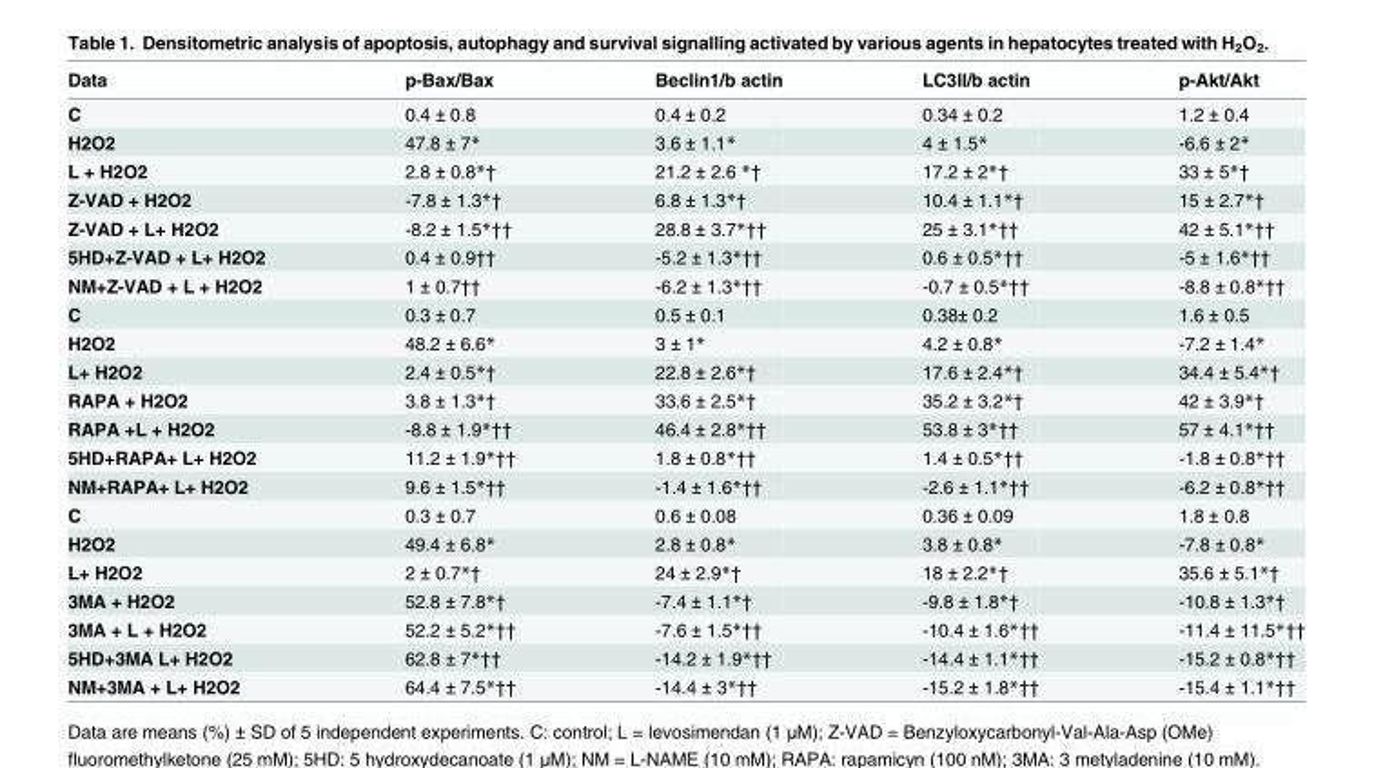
<table><thead><tr><td>Data</td><td>p-Bax/Bax</td><td>Beclin1/b actin</td><td>LC3II/b actin</td><td>p-Akt/Akt</td></tr></thead><tbody><tr><td>C</td><td>0.4 ± 0.8</td><td>0.4 ± 0.2</td><td>0.34 ± 0.2</td><td>1.2 ± 0.4</td></tr><tr><td>H2O2</td><td>47.8 ± 7*</td><td>3.6 ± 1.1*</td><td>4 ± 1.5*</td><td>-6.6 ± 2*</td></tr><tr><td>L + H2O2</td><td>2.8 ± 0.8*†</td><td>21.2 ± 2.6 *†</td><td>17.2 ± 2*†</td><td>33 ± 5*†</td></tr><tr><td>Z-VAD + H2O2</td><td>-7.8 ± 1.3*†</td><td>6.8 ± 1.3*†</td><td>10.4 ± 1.1*†</td><td>15 ± 2.7*†</td></tr><tr><td>Z-VAD + L+ H2O2</td><td>-8.2 ± 1.5*††</td><td>28.8 ± 3.7*††</td><td>25 ± 3.1*††</td><td>42 ± 5.1*††</td></tr><tr><td>5HD+Z-VAD + L+ H2O2</td><td>0.4 ± 0.9††</td><td>-5.2 ± 1.3*††</td><td>0.6 ± 0.5*††</td><td>-5 ± 1.6*††</td></tr><tr><td>NM+Z-VAD + L + H2O2</td><td>1 ± 0.7††</td><td>-6.2 ± 1.3*††</td><td>-0.7 ± 0.5*††</td><td>-8.8 ± 0.8*††</td></tr><tr><td>C</td><td>0.3 ± 0.7</td><td>0.5 ± 0.1</td><td>0.38± 0.2</td><td>1.6 ± 0.5</td></tr><tr><td>H2O2</td><td>48.2 ± 6.6*</td><td>3 ± 1*</td><td>4.2 ± 0.8*</td><td>-7.2 ± 1.4*</td></tr><tr><td>L+ H2O2</td><td>2.4 ± 0.5*†</td><td>22.8 ± 2.6*†</td><td>17.6 ± 2.4*†</td><td>34.4 ± 5.4*†</td></tr><tr><td>RAPA + H2O2</td><td>3.8 ± 1.3*†</td><td>33.6 ± 2.5*†</td><td>35.2 ± 3.2*†</td><td>42 ± 3.9*†</td></tr><tr><td>RAPA +L + H2O2</td><td>-8.8 ± 1.9*††</td><td>46.4 ± 2.8*††</td><td>53.8 ± 3*††</td><td>57 ± 4.1*††</td></tr><tr><td>5HD+RAPA+ L+ H2O2</td><td>11.2 ± 1.9*††</td><td>1.8 ± 0.8*††</td><td>1.4 ± 0.5*††</td><td>-1.8 ± 0.8*††</td></tr><tr><td>NM+RAPA+ L+ H2O2</td><td>9.6 ± 1.5*††</td><td>-1.4 ± 1.6*††</td><td>-2.6 ± 1.1*††</td><td>-6.2 ± 0.8*††</td></tr><tr><td>C</td><td>0.3 ± 0.7</td><td>0.6 ± 0.08</td><td>0.36 ± 0.09</td><td>1.8 ± 0.8</td></tr><tr><td>H2O2</td><td>49.4 ± 6.8*</td><td>2.8 ± 0.8*</td><td>3.8 ± 0.8*</td><td>-7.8 ± 0.8*</td></tr><tr><td>L+ H2O2</td><td>2 ± 0.7*†</td><td>24 ± 2.9*†</td><td>18 ± 2.2*†</td><td>35.6 ± 5.1*†</td></tr><tr><td>3MA + H2O2</td><td>52.8 ± 7.8*†</td><td>-7.4 ± 1.1*†</td><td>-9.8 ± 1.8*†</td><td>-10.8 ± 1.3*†</td></tr><tr><td>3MA + L + H2O2</td><td>52.2 ± 5.2*††</td><td>-7.6 ± 1.5*††</td><td>-10.4 ± 1.6*††</td><td>-11.4 ± 11.5*††</td></tr><tr><td>5HD+3MA L+ H2O2</td><td>62.8 ± 7*††</td><td>-14.2 ± 1.9*††</td><td>-14.4 ± 1.1*††</td><td>-15.2 ± 0.8*††</td></tr><tr><td>NM+3MA + L+ H2O2</td><td>64.4 ± 7.5*††</td><td>-14.4 ± 3*††</td><td>-15.2 ± 1.8*††</td><td>-15.4 ± 1.1*††</td></tr></tbody></table>